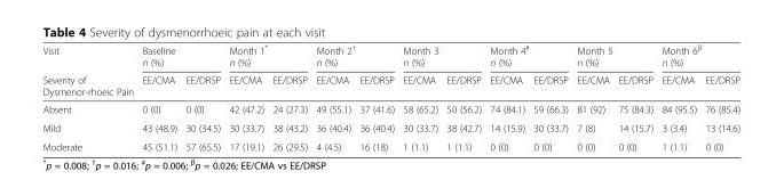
<table><thead><tr><td rowspan="2">Visit Severity of Dysmenor-rhoeic Pain</td><td colspan="2">Baseline n (%)</td><td colspan="2">Month 1* n (%)</td><td colspan="2">Month 2<sup>†</sup> n (%)</td><td colspan="2">Month 3 n (%)</td><td colspan="2">Month 4<sup>#</sup> n (%)</td><td colspan="2">Month 5 n (%)</td><td colspan="2">Month 6<sup>β</sup> n (%)</td></tr><tr><td>EE/CMA</td><td>EE/DRSP</td><td>EE/CMA</td><td>EE/DRSP</td><td>EE/CMA</td><td>EE/DRSP</td><td>EE/CMA</td><td>EE/DRSP</td><td>EE/CMA</td><td>EE/DRSP</td><td>EE/CMA</td><td>EE/DRSP</td><td>EE/CMA</td><td>EE/DRSP</td></tr></thead><tbody><tr><td>Absent</td><td>0 (0)</td><td>0 (0)</td><td>42 (47.2)</td><td>24 (27.3)</td><td>49 (55.1)</td><td>37 (41.6)</td><td>58 (65.2)</td><td>50 (56.2)</td><td>74 (84.1)</td><td>59 (66.3)</td><td>81 (92)</td><td>75 (84.3)</td><td>84 (95.5)</td><td>76 (85.4)</td></tr><tr><td>Mild</td><td>43 (48.9)</td><td>30 (34.5)</td><td>30 (33.7)</td><td>38 (43.2)</td><td>36 (40.4)</td><td>36 (40.4)</td><td>30 (33.7)</td><td>38 (42.7)</td><td>14 (15.9)</td><td>30 (33.7)</td><td>7 (8)</td><td>14 (15.7)</td><td>3 (3.4)</td><td>13 (14.6)</td></tr><tr><td>Moderate</td><td>45 (51.1)</td><td>57 (65.5)</td><td>17 (19.1)</td><td>26 (29.5)</td><td>4 (4.5)</td><td>16 (18)</td><td>1 (1.1)</td><td>1 (1.1)</td><td>0 (0)</td><td>0 (0)</td><td>0 (0)</td><td>0 (0)</td><td>1 (1.1)</td><td>0 (0)</td></tr></tbody></table>